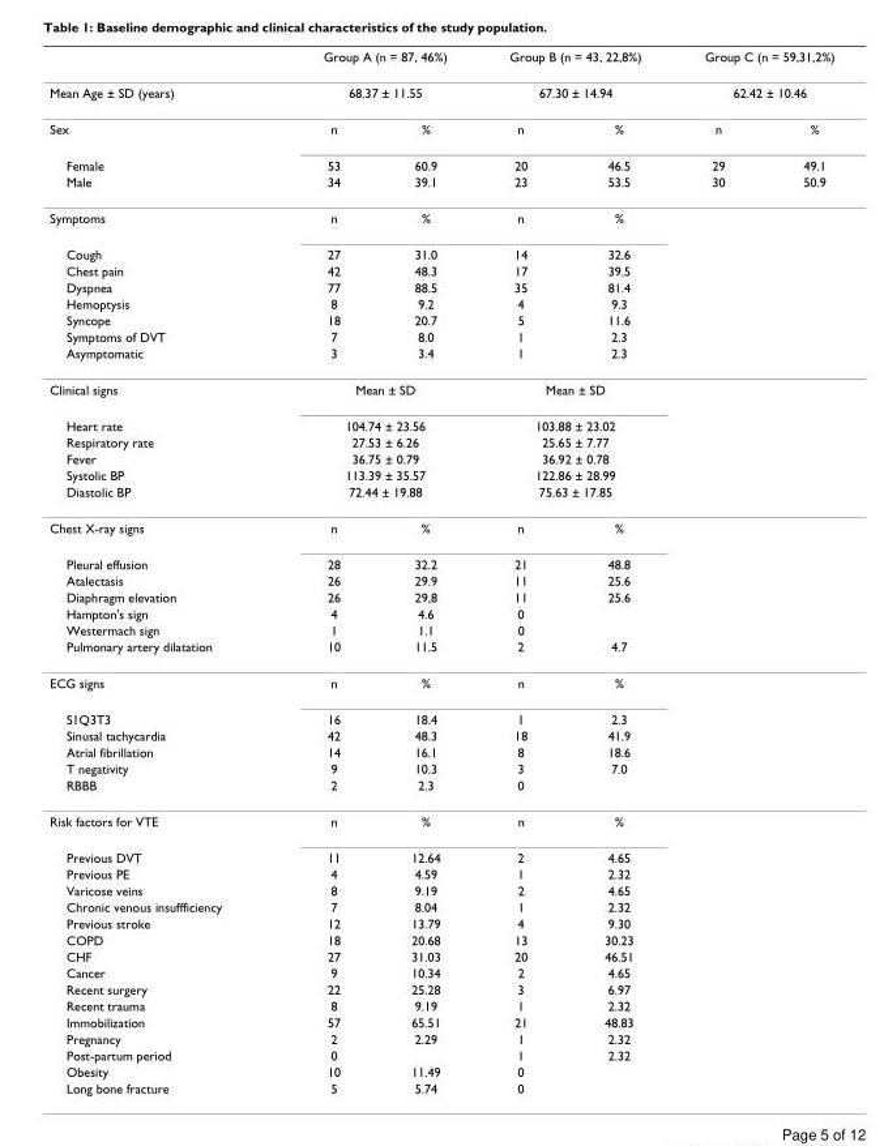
<table><thead><tr><td rowspan="3">Mean Age ± SD (years) Sex</td><td rowspan="2" colspan="2">Group A (n = 87, 46%) 68.37 ± 11.55</td><td rowspan="2" colspan="2">Group B (n = 43, 22,8%) 67.30 ± 14.94</td><td rowspan="2" colspan="2">Group C (n = 59,31,2%) 62.42 ± 10.46</td></tr><tr></tr><tr><td>n</td><td>%</td><td>n</td><td>%</td><td>n</td><td>%</td></tr></thead><tbody><tr><td>Female</td><td>53</td><td>60.9</td><td>20</td><td>46.5</td><td>29</td><td>49.1</td></tr><tr><td>Male</td><td>34</td><td>39.1</td><td>23</td><td>53.5</td><td>30</td><td>50.9</td></tr><tr><td>Symptoms</td><td>n</td><td>%</td><td>n</td><td>%</td><td></td><td></td></tr><tr><td>Cough</td><td>27</td><td>31.0</td><td>14</td><td>32.6</td><td></td><td></td></tr><tr><td>Chest pain</td><td>42</td><td>48.3</td><td>17</td><td>39.5</td><td></td><td></td></tr><tr><td>Dyspnea</td><td>77</td><td>88.5</td><td>35</td><td>81.4</td><td></td><td></td></tr><tr><td>Hemoptysis</td><td>8</td><td>9.2</td><td>4</td><td>9.3</td><td></td><td></td></tr><tr><td>Syncope</td><td>18</td><td>20.7</td><td>5</td><td>11.6</td><td></td><td></td></tr><tr><td>Symptoms of DVT</td><td>7</td><td>8.0</td><td>1</td><td>2.3</td><td></td><td></td></tr><tr><td>Asymptomatic</td><td>3</td><td>3.4</td><td>1</td><td>2.3</td><td></td><td></td></tr><tr><td>Clinical signs</td><td colspan="2">Mean ± SD</td><td colspan="2">Mean ± SD</td><td></td><td></td></tr><tr><td>Heart rate</td><td colspan="2">104.74 ± 23.56</td><td colspan="2">103.88 ± 23.02</td><td></td><td></td></tr><tr><td>Respiratory rate</td><td colspan="2">27.53 ± 6.26</td><td colspan="2">25.65 ± 7.77</td><td></td><td></td></tr><tr><td>Fever</td><td colspan="2">36.75 ± 0.79</td><td colspan="2">36.92 ± 0.78</td><td></td><td></td></tr><tr><td>Systolic BP</td><td colspan="2">113.39 ± 35.57</td><td colspan="2">122.86 ± 28.99</td><td></td><td></td></tr><tr><td>Diastolic BP</td><td colspan="2">72.44 ± 19.88</td><td colspan="2">75.63 ± 17.85</td><td></td><td></td></tr><tr><td>Chest X-ray signs</td><td>n</td><td>%</td><td>n</td><td>%</td><td></td><td></td></tr><tr><td>Pleural effusion</td><td>28</td><td>32.2</td><td>21</td><td>48.8</td><td></td><td></td></tr><tr><td>Atalectasis</td><td>26</td><td>29.9</td><td>11</td><td>25.6</td><td></td><td></td></tr><tr><td>Diaphragm elevation</td><td>26</td><td>29,8</td><td>11</td><td>25.6</td><td></td><td></td></tr><tr><td>Hampton&#x27;s sign</td><td>4</td><td>4.6</td><td>0</td><td></td><td></td><td></td></tr><tr><td>Westermach sign</td><td>1</td><td>1.1</td><td>0</td><td></td><td></td><td></td></tr><tr><td>Pulmonary artery dilatation</td><td>10</td><td>11.5</td><td>2</td><td>4.7</td><td></td><td></td></tr><tr><td>ECG signs</td><td>n</td><td>%</td><td>n</td><td>%</td><td></td><td></td></tr><tr><td>S1Q3T3</td><td>16</td><td>18.4</td><td>1</td><td>2.3</td><td></td><td></td></tr><tr><td>Sinusal tachycardia</td><td>42</td><td>48.3</td><td>18</td><td>41.9</td><td></td><td></td></tr><tr><td>Atrial fibrillation</td><td>14</td><td>16.1</td><td>8</td><td>18.6</td><td></td><td></td></tr><tr><td>T negativity</td><td>9</td><td>10.3</td><td>3</td><td>7.0</td><td></td><td></td></tr><tr><td>RBBB</td><td>2</td><td>2.3</td><td>0</td><td></td><td></td><td></td></tr><tr><td>Risk factors for VTE</td><td>n</td><td>%</td><td>n</td><td>%</td><td></td><td></td></tr><tr><td>Previous DVT</td><td>11</td><td>12.64</td><td>2</td><td>4.65</td><td></td><td></td></tr><tr><td>Previous PE</td><td>4</td><td>4.59</td><td>1</td><td>2.32</td><td></td><td></td></tr><tr><td>Varicose veins</td><td>8</td><td>9.19</td><td>2</td><td>4.65</td><td></td><td></td></tr><tr><td>Chronic venous insuffficiency</td><td>7</td><td>8.04</td><td>1</td><td>2.32</td><td></td><td></td></tr><tr><td>Previous stroke</td><td>12</td><td>13.79</td><td>4</td><td>9.30</td><td></td><td></td></tr><tr><td>COPD</td><td>18</td><td>20.68</td><td>13</td><td>30.23</td><td></td><td></td></tr><tr><td>CHF</td><td>27</td><td>31.03</td><td>20</td><td>46.51</td><td></td><td></td></tr><tr><td>Cancer</td><td>9</td><td>10.34</td><td>2</td><td>4.65</td><td></td><td></td></tr><tr><td>Recent surgery</td><td>22</td><td>25.28</td><td>3</td><td>6.97</td><td></td><td></td></tr><tr><td>Recent trauma</td><td>8</td><td>9.19</td><td>1</td><td>2.32</td><td></td><td></td></tr><tr><td>Immobilization</td><td>57</td><td>65.51</td><td>21</td><td>48.83</td><td></td><td></td></tr><tr><td>Pregnancy</td><td>2</td><td>2.29</td><td>1</td><td>2.32</td><td></td><td></td></tr><tr><td>Post-partum period</td><td>0</td><td></td><td>1</td><td>2.32</td><td></td><td></td></tr><tr><td>Obesity</td><td>10</td><td>11.49</td><td>0</td><td></td><td></td><td></td></tr><tr><td>Long bone fracture</td><td>5</td><td>5.74</td><td>0</td><td></td><td></td><td></td></tr></tbody></table>